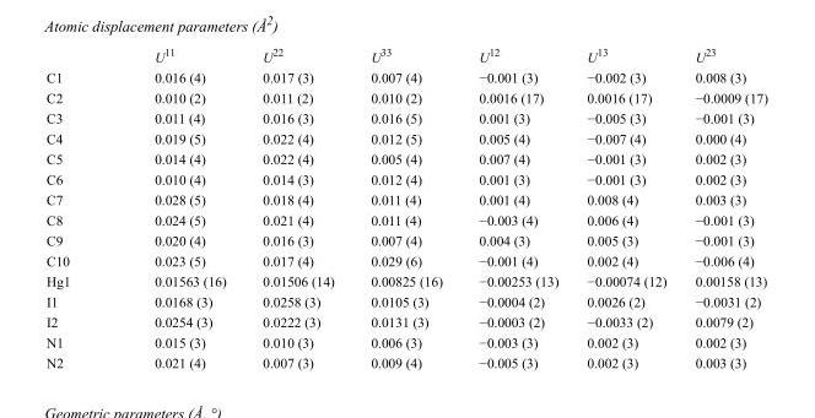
<table><thead><tr><td></td><td>U<sup>11</sup></td><td>U<sup>22</sup></td><td>U<sup>33</sup></td><td>U<sup>12</sup></td><td>U<sup>13</sup></td><td>U<sup>23</sup></td></tr></thead><tbody><tr><td>C1</td><td>0.016 (4)</td><td>0.017 (3)</td><td>0.007 (4)</td><td>−0.001 (3)</td><td>−0.002 (3)</td><td>0.008 (3)</td></tr><tr><td>C2</td><td>0.010 (2)</td><td>0.011 (2)</td><td>0.010 (2)</td><td>0.0016 (17)</td><td>0.0016 (17)</td><td>−0.0009 (17)</td></tr><tr><td>C3</td><td>0.011 (4)</td><td>0.016 (3)</td><td>0.016 (5)</td><td>0.001 (3)</td><td>−0.005 (3)</td><td>−0.001 (3)</td></tr><tr><td>C4</td><td>0.019 (5)</td><td>0.022 (4)</td><td>0.012 (5)</td><td>0.005 (4)</td><td>−0.007 (4)</td><td>0.000 (4)</td></tr><tr><td>C5</td><td>0.014 (4)</td><td>0.022 (4)</td><td>0.005 (4)</td><td>0.007 (4)</td><td>−0.001 (3)</td><td>0.002 (3)</td></tr><tr><td>C6</td><td>0.010 (4)</td><td>0.014 (3)</td><td>0.012 (4)</td><td>0.001 (3)</td><td>−0.001 (3)</td><td>0.002 (3)</td></tr><tr><td>C7</td><td>0.028 (5)</td><td>0.018 (4)</td><td>0.011 (4)</td><td>0.001 (4)</td><td>0.008 (4)</td><td>0.003 (3)</td></tr><tr><td>C8</td><td>0.024 (5)</td><td>0.021 (4)</td><td>0.011 (4)</td><td>−0.003 (4)</td><td>0.006 (4)</td><td>−0.001 (3)</td></tr><tr><td>C9</td><td>0.020 (4)</td><td>0.016 (3)</td><td>0.007 (4)</td><td>0.004 (3)</td><td>0.005 (3)</td><td>−0.001 (3)</td></tr><tr><td>C10</td><td>0.023 (5)</td><td>0.017 (4)</td><td>0.029 (6)</td><td>−0.001 (4)</td><td>0.002 (4)</td><td>−0.006 (4)</td></tr><tr><td>Hg1</td><td>0.01563 (16)</td><td>0.01506 (14)</td><td>0.00825 (16)</td><td>−0.00253 (13)</td><td>−0.00074 (12)</td><td>0.00158 (13)</td></tr><tr><td>I1</td><td>0.0168 (3)</td><td>0.0258 (3)</td><td>0.0105 (3)</td><td>−0.0004 (2)</td><td>0.0026 (2)</td><td>−0.0031 (2)</td></tr><tr><td>I2</td><td>0.0254 (3)</td><td>0.0222 (3)</td><td>0.0131 (3)</td><td>−0.0003 (2)</td><td>−0.0033 (2)</td><td>0.0079 (2)</td></tr><tr><td>N1</td><td>0.015 (3)</td><td>0.010 (3)</td><td>0.006 (3)</td><td>−0.003 (3)</td><td>0.002 (3)</td><td>0.002 (3)</td></tr><tr><td>N2</td><td>0.021 (4)</td><td>0.007 (3)</td><td>0.009 (4)</td><td>−0.005 (3)</td><td>0.002 (3)</td><td>0.003 (3)</td></tr></tbody></table>